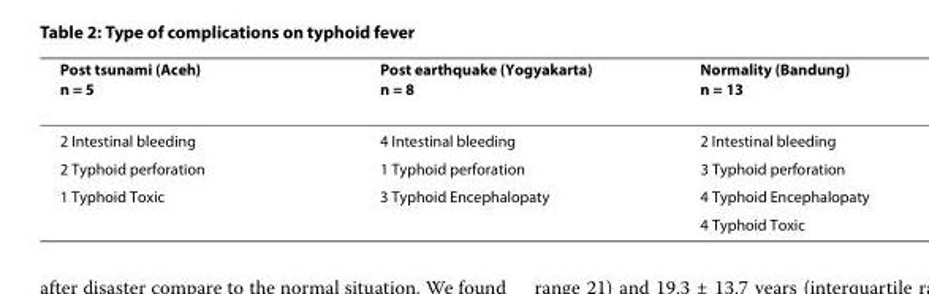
<table><thead><tr><td>Post tsunami (Aceh) n = 5</td><td>Post earthquake (Yogyakarta) n = 8</td><td>Normality (Bandung) n = 13</td></tr></thead><tbody><tr><td>2 Intestinal bleeding</td><td>4 Intestinal bleeding</td><td>2 Intestinal bleeding</td></tr><tr><td>2 Typhoid perforation</td><td>1 Typhoid perforation</td><td>3 Typhoid perforation</td></tr><tr><td rowspan="2">1 Typhoid Toxic</td><td>3 Typhoid Encephalopaty</td><td>4 Typhoid Encephalopaty</td></tr><tr><td></td><td>4 Typhoid Toxic</td></tr></tbody></table>